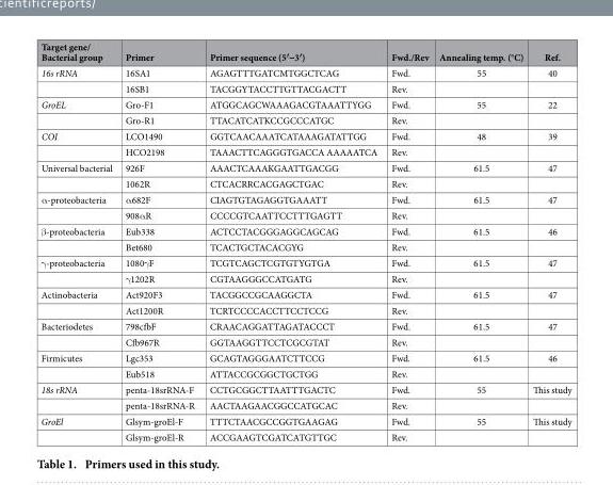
<table><thead><tr><td>Target gene/ Bacterial group</td><td>Primer</td><td>Primer sequence (5′–3′)</td><td>Fwd./Rev</td><td>Annealing temp. (°C)</td><td>Ref.</td></tr></thead><tbody><tr><td rowspan="2">16s rRNA</td><td>16SA1</td><td>AGAGTTTGATCMTGGCTCAG</td><td>Fwd.</td><td>55</td><td>40</td></tr><tr><td>16SB1</td><td>TACGGYTACCTTGTTACGACTT</td><td>Rev.</td><td></td><td></td></tr><tr><td rowspan="2">GroEL</td><td>Gro-F1</td><td>ATGGCAGCWAAAGACGTAAATTYGG</td><td>Fwd.</td><td>55</td><td>22</td></tr><tr><td>Gro-R1</td><td>TTACATCATKCCGCCCATGC</td><td>Rev.</td><td></td><td></td></tr><tr><td rowspan="2">COI</td><td>LCO1490</td><td>GGTCAACAAATCATAAAGATATTGG</td><td>Fwd.</td><td>48</td><td>39</td></tr><tr><td>HCO2198</td><td>TAAACTTCAGGGTGACCA AAAAATCA</td><td>Rev.</td><td></td><td></td></tr><tr><td rowspan="2">Universal bacterial</td><td>926F</td><td>AAACTCAAAKGAATTGACGG</td><td>Fwd.</td><td>61.5</td><td>47</td></tr><tr><td>1062R</td><td>CTCACRRCACGAGCTGAC</td><td>Rev.</td><td></td><td></td></tr><tr><td rowspan="2">α-proteobacteria</td><td>α 682F</td><td>CIAGTGTAGAGGTGAAATT</td><td>Fwd.</td><td>61.5</td><td>47</td></tr><tr><td>908α R</td><td>CCCCGTCAATTCCTTTGAGTT</td><td>Rev.</td><td></td><td></td></tr><tr><td rowspan="2">β-proteobacteria</td><td>Eub338</td><td>ACTCCTACGGGAGGCAGCAG</td><td>Fwd.</td><td>61.5</td><td>46</td></tr><tr><td>Bet680</td><td>TCACTGCTACACGYG</td><td>Rev.</td><td></td><td></td></tr><tr><td rowspan="2">γ-proteobacteria</td><td>1080γ F</td><td>TCGTCAGCTCGTGTYGTGA</td><td>Fwd.</td><td>61.5</td><td>47</td></tr><tr><td>γ 1202R</td><td>CGTAAGGGCCATGATG</td><td>Rev.</td><td></td><td></td></tr><tr><td rowspan="2">Actinobacteria</td><td>Act920F3</td><td>TACGGCCGCAAGGCTA</td><td>Fwd.</td><td>61.5</td><td>47</td></tr><tr><td>Act1200R</td><td>TCRTCCCCACCTTCCTCCG</td><td>Rev.</td><td></td><td></td></tr><tr><td rowspan="2">Bacteriodetes</td><td>798cfbF</td><td>CRAACAGGATTAGATACCCT</td><td>Fwd.</td><td>61.5</td><td>47</td></tr><tr><td>Cfb967R</td><td>GGTAAGGTTCCTCGCGTAT</td><td>Rev.</td><td></td><td></td></tr><tr><td rowspan="2">Firmicutes</td><td>Lgc353</td><td>GCAGTAGGGAATCTTCCG</td><td>Fwd.</td><td>61.5</td><td>46</td></tr><tr><td>Eub518</td><td>ATTACCGCGGCTGCTGG</td><td>Rev.</td><td></td><td></td></tr><tr><td rowspan="2">18s rRNA</td><td>penta-18srRNA-F</td><td>CCTGCGGCTTAATTTGACTC</td><td>Fwd.</td><td>55</td><td>This study</td></tr><tr><td>penta-18srRNA-R</td><td>AACTAAGAACGGCCATGCAC</td><td>Rev.</td><td></td><td></td></tr><tr><td rowspan="2">GroEl</td><td>Glsym-groEl-F</td><td>TTTCTAACGCCGGTGAAGAG</td><td>Fwd.</td><td>55</td><td>This study</td></tr><tr><td>Glsym-groEl-R</td><td>ACCGAAGTCGATCATGTTGC</td><td>Rev.</td><td></td><td></td></tr></tbody></table>